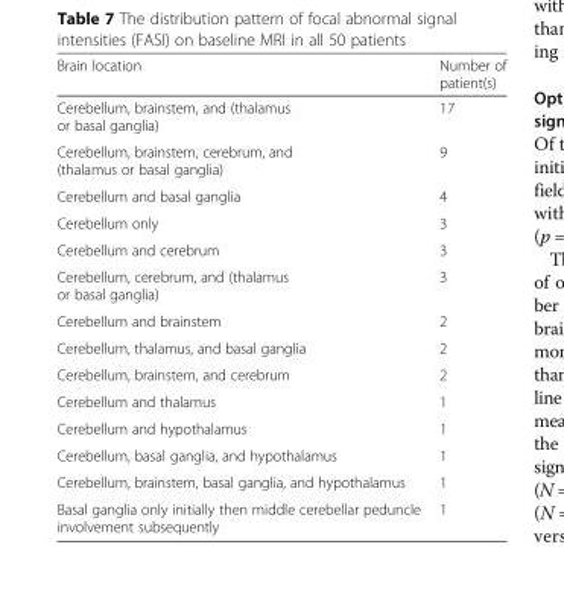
<table><thead><tr><td>Brain location</td><td>Number of patient(s)</td></tr></thead><tbody><tr><td>Cerebellum, brainstem, and (thalamus or basal ganglia)</td><td>17</td></tr><tr><td>Cerebellum, brainstem, cerebrum, and (thalamus or basal ganglia)</td><td>9</td></tr><tr><td>Cerebellum and basal ganglia</td><td>4</td></tr><tr><td>Cerebellum only</td><td>3</td></tr><tr><td>Cerebellum and cerebrum</td><td>3</td></tr><tr><td>Cerebellum, cerebrum, and (thalamus or basal ganglia)</td><td>3</td></tr><tr><td>Cerebellum and brainstem</td><td>2</td></tr><tr><td>Cerebellum, thalamus, and basal ganglia</td><td>2</td></tr><tr><td>Cerebellum, brainstem, and cerebrum</td><td>2</td></tr><tr><td>Cerebellum and thalamus</td><td>1</td></tr><tr><td>Cerebellum and hypothalamus</td><td>1</td></tr><tr><td>Cerebellum, basal ganglia, and hypothalamus</td><td>1</td></tr><tr><td>Cerebellum, brainstem, basal ganglia, and hypothalamus</td><td>1</td></tr><tr><td>Basal ganglia only initially then middle cerebellar peduncle involvement subsequently</td><td>1</td></tr></tbody></table>